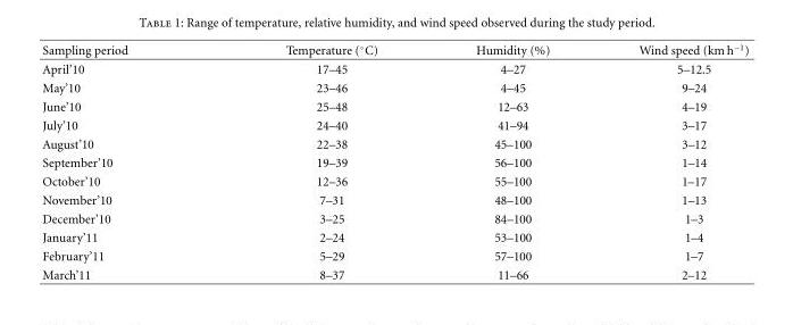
<table><thead><tr><td>Sampling period</td><td>Temperature (◦C)</td><td>Humidity (%)</td><td>Wind speed (km h<sup>−1</sup>)</td></tr></thead><tbody><tr><td>April’10</td><td>17–45</td><td>4–27</td><td>5–12.5</td></tr><tr><td>May’10</td><td>23–46</td><td>4–45</td><td>9–24</td></tr><tr><td>June’10</td><td>25–48</td><td>12–63</td><td>4–19</td></tr><tr><td>July’10</td><td>24–40</td><td>41–94</td><td>3–17</td></tr><tr><td>August’10</td><td>22–38</td><td>45–100</td><td>3–12</td></tr><tr><td>September’10</td><td>19–39</td><td>56–100</td><td>1–14</td></tr><tr><td>October’10</td><td>12–36</td><td>55–100</td><td>1–17</td></tr><tr><td>November’10</td><td>7–31</td><td>48–100</td><td>1–13</td></tr><tr><td>December’10</td><td>3–25</td><td>84–100</td><td>1–3</td></tr><tr><td>January’11</td><td>2–24</td><td>53–100</td><td>1–4</td></tr><tr><td>February’11</td><td>5–29</td><td>57–100</td><td>1–7</td></tr><tr><td>March’11</td><td>8–37</td><td>11–66</td><td>2–12</td></tr></tbody></table>